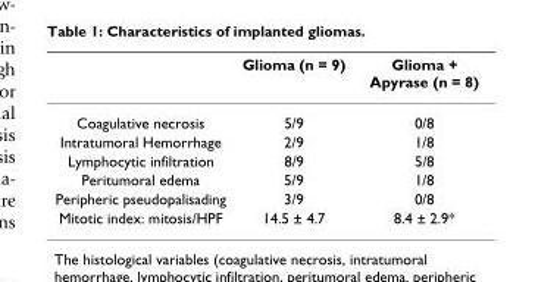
<table><thead><tr><td></td><td>Glioma (n = 9)</td><td>Glioma + Apyrase (n = 8)</td></tr></thead><tbody><tr><td>Coagulative necrosis</td><td>5/9</td><td>0/8</td></tr><tr><td>Intratumoral Hemorrhage</td><td>2/9</td><td>1/8</td></tr><tr><td>Lymphocytic infiltration</td><td>8/9</td><td>5/8</td></tr><tr><td>Peritumoral edema</td><td>5/9</td><td>1/8</td></tr><tr><td>Peripheric pseudopalisading</td><td>3/9</td><td>0/8</td></tr><tr><td>Mitotic index: mitosis/HPF</td><td>14.5 ± 4.7</td><td>8.4 ± 2.9*</td></tr></tbody></table>